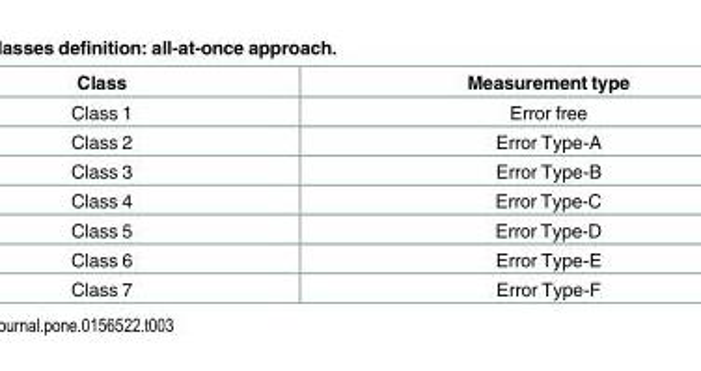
<table><thead><tr><td>Class</td><td>Measurement type</td></tr></thead><tbody><tr><td>Class 1</td><td>Error free</td></tr><tr><td>Class 2</td><td>Error Type-A</td></tr><tr><td>Class 3</td><td>Error Type-B</td></tr><tr><td>Class 4</td><td>Error Type-C</td></tr><tr><td>Class 5</td><td>Error Type-D</td></tr><tr><td>Class 6</td><td>Error Type-E</td></tr><tr><td>Class 7</td><td>Error Type-F</td></tr></tbody></table>